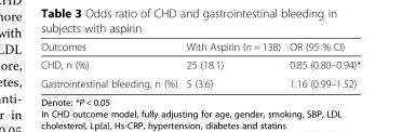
<table><thead><tr><td>Outcomes</td><td>With Aspirin (n = 138)</td><td>OR (95 % CI)</td></tr></thead><tbody><tr><td>CHD, n (%)</td><td>25 (18.1)</td><td>0.85 (0.80–0.94)*</td></tr><tr><td>Gastrointestinal bleeding, n (%)</td><td>5 (3.6)</td><td>1.16 (0.99–1.52)</td></tr></tbody></table>